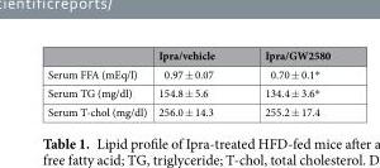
<table><thead><tr><td></td><td>Ipra/vehicle</td><td>Ipra/GW2580</td></tr></thead><tbody><tr><td>Serum FFA (mEq/l)</td><td>0.97 ± 0.07</td><td>0.70 ± 0.1*</td></tr><tr><td>Serum TG (mg/dl)</td><td>154.8 ± 5.6</td><td>134.4 ± 3.6*</td></tr><tr><td>Serum T-chol (mg/dl)</td><td>256.0 ± 14.3</td><td>255.2 ± 17.4</td></tr></tbody></table>